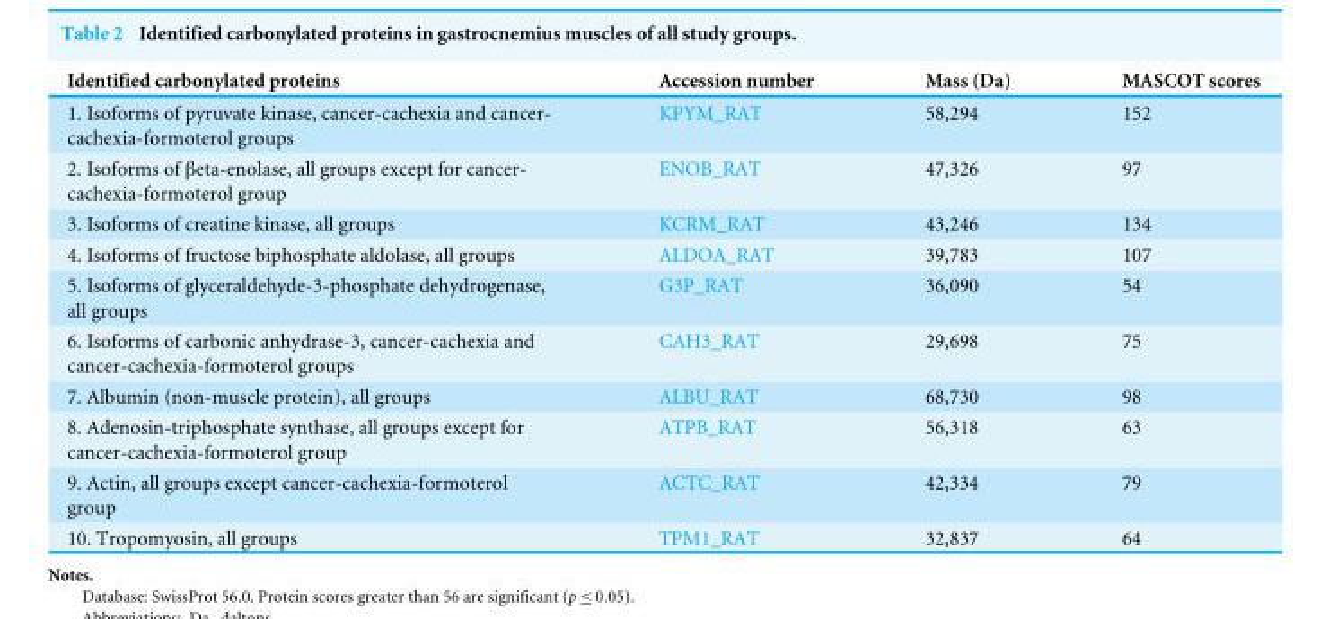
<table><thead><tr><td>Identified carbonylated proteins</td><td>Accession number</td><td>Mass (Da)</td><td>MASCOT scores</td></tr></thead><tbody><tr><td>1. Isoforms of pyruvate kinase, cancer-cachexia and cancer- cachexia-formoterol groups</td><td>KPYM_RAT</td><td>58,294</td><td>152</td></tr><tr><td>2. Isoforms of βeta-enolase, all groups except for cancer- cachexia-formoterol group</td><td>ENOB_RAT</td><td>47,326</td><td>97</td></tr><tr><td>3. Isoforms of creatine kinase, all groups</td><td>KCRM_RAT</td><td>43,246</td><td>134</td></tr><tr><td>4. Isoforms of fructose biphosphate aldolase, all groups</td><td>ALDOA_RAT</td><td>39,783</td><td>107</td></tr><tr><td>5. Isoforms of glyceraldehyde-3-phosphate dehydrogenase, all groups</td><td>G3P_RAT</td><td>36,090</td><td>54</td></tr><tr><td>6. Isoforms of carbonic anhydrase-3, cancer-cachexia and cancer-cachexia-formoterol groups</td><td>CAH3_RAT</td><td>29,698</td><td>75</td></tr><tr><td>7. Albumin (non-muscle protein), all groups</td><td>ALBU_RAT</td><td>68,730</td><td>98</td></tr><tr><td>8. Adenosin-triphosphate synthase, all groups except for cancer-cachexia-formoterol group</td><td>ATPB_RAT</td><td>56,318</td><td>63</td></tr><tr><td>9. Actin, all groups except cancer-cachexia-formoterol group</td><td>ACTC_RAT</td><td>42,334</td><td>79</td></tr><tr><td>10. Tropomyosin, all groups</td><td>TPM1_RAT</td><td>32,837</td><td>64</td></tr></tbody></table>